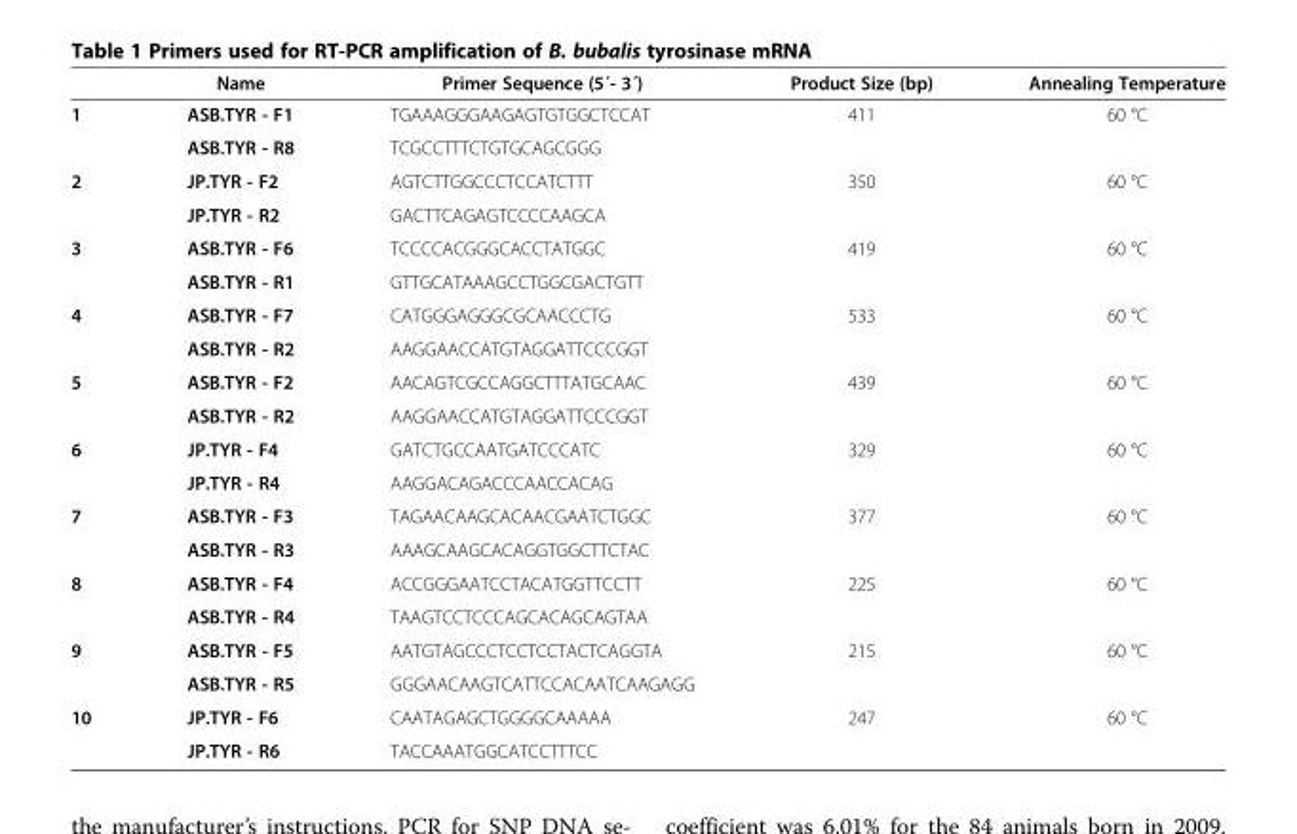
<table><thead><tr><td></td><td>Name</td><td>Primer Sequence (5´- 3´)</td><td>Product Size (bp)</td><td>Annealing Temperature</td></tr></thead><tbody><tr><td rowspan="2">1</td><td>ASB.TYR - F1</td><td>TGAAAGGGAAGAGTGTGGCTCCAT</td><td rowspan="2">411</td><td rowspan="2">60 °C</td></tr><tr><td>ASB.TYR - R8</td><td>TCGCCTTTCTGTGCAGCGGG</td></tr><tr><td rowspan="2">2</td><td>JP.TYR - F2</td><td>AGTCTTGGCCCTCCATCTTT</td><td rowspan="2">350</td><td rowspan="2">60 °C</td></tr><tr><td>JP.TYR - R2</td><td>GACTTCAGAGTCCCCAAGCA</td></tr><tr><td rowspan="2">3</td><td>ASB.TYR - F6</td><td>TCCCCACGGGCACCTATGGC</td><td rowspan="2">419</td><td rowspan="2">60 °C</td></tr><tr><td>ASB.TYR - R1</td><td>GTTGCATAAAGCCTGGCGACTGTT</td></tr><tr><td rowspan="2">4</td><td>ASB.TYR - F7</td><td>CATGGGAGGGCGCAACCCTG</td><td rowspan="2">533</td><td rowspan="2">60 °C</td></tr><tr><td>ASB.TYR - R2</td><td>AAGGAACCATGTAGGATTCCCGGT</td></tr><tr><td rowspan="2">5</td><td>ASB.TYR - F2</td><td>AACAGTCGCCAGGCTTTATGCAAC</td><td rowspan="2">439</td><td rowspan="2">60 °C</td></tr><tr><td>ASB.TYR - R2</td><td>AAGGAACCATGTAGGATTCCCGGT</td></tr><tr><td rowspan="2">6</td><td>JP.TYR - F4</td><td>GATCTGCCAATGATCCCATC</td><td rowspan="2">329</td><td rowspan="2">60 °C</td></tr><tr><td>JP.TYR - R4</td><td>AAGGACAGACCCAACCACAG</td></tr><tr><td rowspan="2">7</td><td>ASB.TYR - F3</td><td>TAGAACAAGCACAACGAATCTGGC</td><td rowspan="2">377</td><td rowspan="2">60 °C</td></tr><tr><td>ASB.TYR - R3</td><td>AAAGCAAGCACAGGTGGCTTCTAC</td></tr><tr><td rowspan="2">8</td><td>ASB.TYR - F4</td><td>ACCGGGAATCCTACATGGTTCCTT</td><td rowspan="2">225</td><td rowspan="2">60 °C</td></tr><tr><td>ASB.TYR - R4</td><td>TAAGTCCTCCCAGCACAGCAGTAA</td></tr><tr><td rowspan="2">9</td><td>ASB.TYR - F5</td><td>AATGTAGCCCTCCTCCTACTCAGGTA</td><td rowspan="2">215</td><td rowspan="2">60 °C</td></tr><tr><td>ASB.TYR - R5</td><td>GGGAACAAGTCATTCCACAATCAAGAGG</td></tr><tr><td rowspan="2">10</td><td>JP.TYR - F6</td><td>CAATAGAGCTGGGGCAAAAA</td><td>247</td><td>60 °C</td></tr><tr><td>JP.TYR - R6</td><td>TACCAAATGGCATCCTTTCC</td><td></td><td></td></tr></tbody></table>